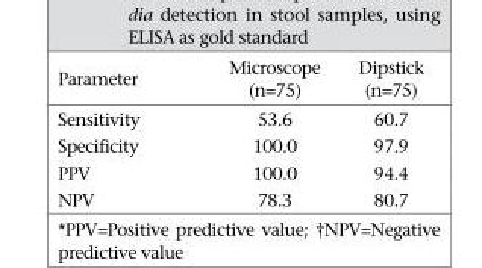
<table><thead><tr><td>Parameter</td><td>Microscope (n=75)</td><td>Dipstick (n=75)</td></tr></thead><tbody><tr><td>Sensitivity</td><td>53.6</td><td>60.7</td></tr><tr><td>Specificity</td><td>100.0</td><td>97.9</td></tr><tr><td>PPV</td><td>100.0</td><td>94.4</td></tr><tr><td>NPV</td><td>78.3</td><td>80.7</td></tr></tbody></table>